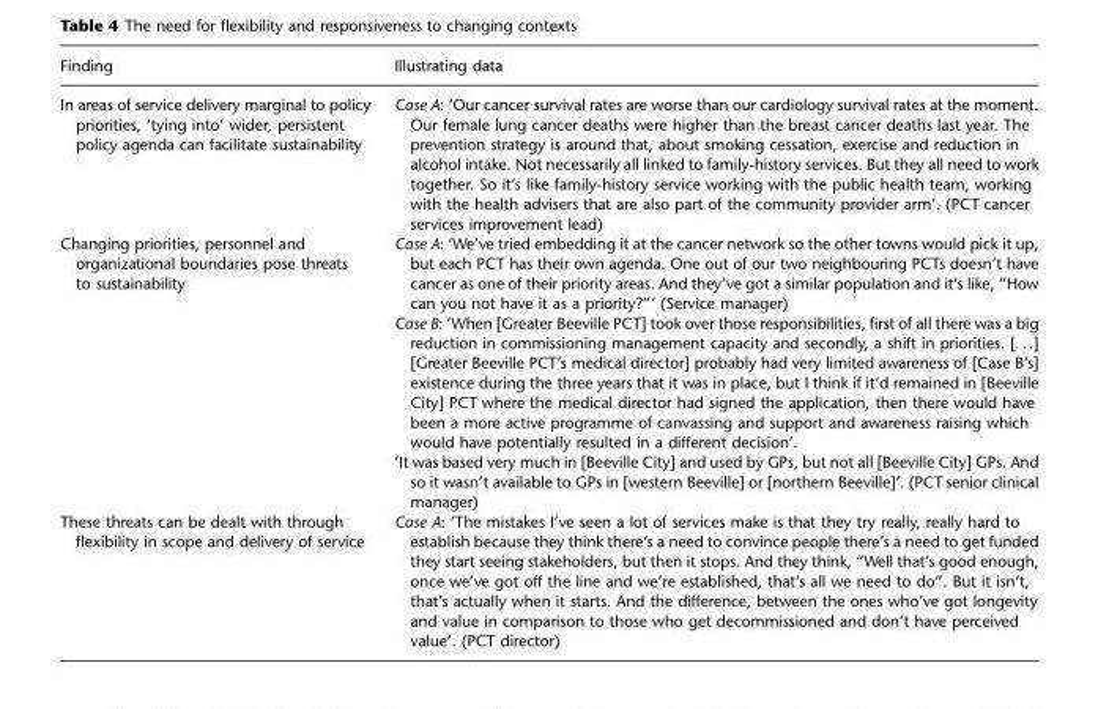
<table><thead><tr><td>Finding</td><td>Illustrating data</td></tr></thead><tbody><tr><td>In areas of service delivery marginal to policy priorities, ‘tying into’ wider, persistent policy agenda can facilitate sustainability</td><td>Case A: ‘Our cancer survival rates are worse than our cardiology survival rates at the moment. Our female lung cancer deaths were higher than the breast cancer deaths last year. The prevention strategy is around that, about smoking cessation, exercise and reduction in alcohol intake. Not necessarily all linked to family-history services. But they all need to work together. So it’s like family-history service working with the public health team, working with the health advisers that are also part of the community provider arm’. (PCT cancer services improvement lead)</td></tr><tr><td rowspan="3">Changing priorities, personnel and organizational boundaries pose threats to sustainability</td><td>Case A: ‘We’ve tried embedding it at the cancer network so the other towns would pick it up, but each PCT has their own agenda. One out of our two neighbouring PCTs doesn’t have cancer as one of their priority areas. And they’ve got a similar population and it’s like, “How can you not have it as a priority?”’ (Service manager)</td></tr><tr><td>Case B: ‘When [Greater Beeville PCT] took over those responsibilities, first of all there was a big reduction in commissioning management capacity and secondly, a shift in priorities. [. . .] [Greater Beeville PCT’s medical director] probably had very limited awareness of [Case B’s] existence during the three years that it was in place, but I think if it’d remained in [Beeville City] PCT where the medical director had signed the application, then there would have been a more active programme of canvassing and support and awareness raising which would have potentially resulted in a different decision’.</td></tr><tr><td>‘It was based very much in [Beeville City] and used by GPs, but not all [Beeville City] GPs. And so it wasn’t available to GPs in [western Beeville] or [northern Beeville]’. (PCT senior clinical manager)</td></tr><tr><td>These threats can be dealt with through flexibility in scope and delivery of service</td><td>Case A: ‘The mistakes I’ve seen a lot of services make is that they try really, really hard to establish because they think there’s a need to convince people there’s a need to get funded they start seeing stakeholders, but then it stops. And they think, “Well that’s good enough, once we’ve got off the line and we’re established, that’s all we need to do”. But it isn’t, that’s actually when it starts. And the difference, between the ones who’ve got longevity and value in comparison to those who get decommissioned and don’t have perceived value’. (PCT director)</td></tr></tbody></table>